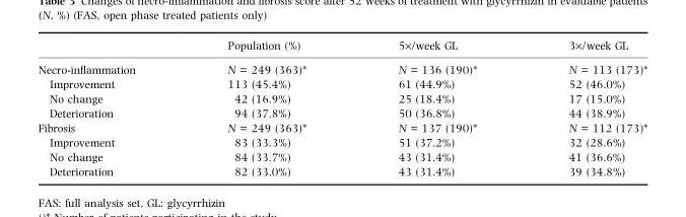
<table><thead><tr><td></td><td>Population (%)</td><td>5×/week GL</td><td>3×/week GL</td></tr></thead><tbody><tr><td>Necro-inflammation</td><td>N = 249 (363)*</td><td>N = 136 (190)*</td><td>N = 113 (173)*</td></tr><tr><td>Improvement</td><td>113 (45.4%)</td><td>61 (44.9%)</td><td>52 (46.0%)</td></tr><tr><td>No change</td><td>42 (16.9%)</td><td>25 (18.4%)</td><td>17 (15.0%)</td></tr><tr><td>Deterioration</td><td>94 (37.8%)</td><td>50 (36.8%)</td><td>44 (38.9%)</td></tr><tr><td>Fibrosis</td><td>N = 249 (363)*</td><td>N = 137 (190)*</td><td>N = 112 (173)*</td></tr><tr><td>Improvement</td><td>83 (33.3%)</td><td>51 (37.2%)</td><td>32 (28.6%)</td></tr><tr><td>No change</td><td>84 (33.7%)</td><td>43 (31.4%)</td><td>41 (36.6%)</td></tr><tr><td>Deterioration</td><td>82 (33.0%)</td><td>43 (31.4%)</td><td>39 (34.8%)</td></tr></tbody></table>